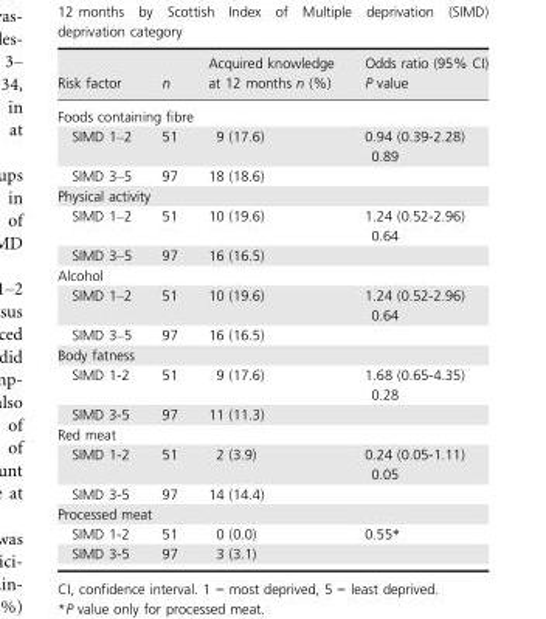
<table><thead><tr><td>Risk factor</td><td>n</td><td>Acquired knowledge at 12 months n (%)</td><td>Odds ratio (95% CI) P value</td></tr></thead><tbody><tr><td colspan="4">Foods containing fibre</td></tr><tr><td>SIMD 1–2</td><td>51</td><td>9 (17.6)</td><td rowspan="2">0.94 (0.39-2.28) 0.89</td></tr><tr><td>SIMD 3–5</td><td>97</td><td>18 (18.6)</td></tr><tr><td colspan="4">Physical activity</td></tr><tr><td>SIMD 1–2</td><td>51</td><td>10 (19.6)</td><td rowspan="2">1.24 (0.52-2.96) 0.64</td></tr><tr><td>SIMD 3–5</td><td>97</td><td>16 (16.5)</td></tr><tr><td colspan="4">Alcohol</td></tr><tr><td>SIMD 1–2</td><td>51</td><td>10 (19.6)</td><td rowspan="2">1.24 (0.52-2.96) 0.64</td></tr><tr><td>SIMD 3–5</td><td>97</td><td>16 (16.5)</td></tr><tr><td colspan="4">Body fatness</td></tr><tr><td>SIMD 1-2</td><td>51</td><td>9 (17.6)</td><td rowspan="2">1.68 (0.65-4.35) 0.28</td></tr><tr><td>SIMD 3-5</td><td>97</td><td>11 (11.3)</td></tr><tr><td colspan="4">Red meat</td></tr><tr><td>SIMD 1-2</td><td>51</td><td>2 (3.9)</td><td rowspan="2">0.24 (0.05-1.11) 0.05</td></tr><tr><td>SIMD 3-5</td><td>97</td><td>14 (14.4)</td></tr><tr><td colspan="4">Processed meat</td></tr><tr><td>SIMD 1-2</td><td>51</td><td>0 (0.0)</td><td rowspan="2">0.55*</td></tr><tr><td>SIMD 3-5</td><td>97</td><td>3 (3.1)</td></tr></tbody></table>